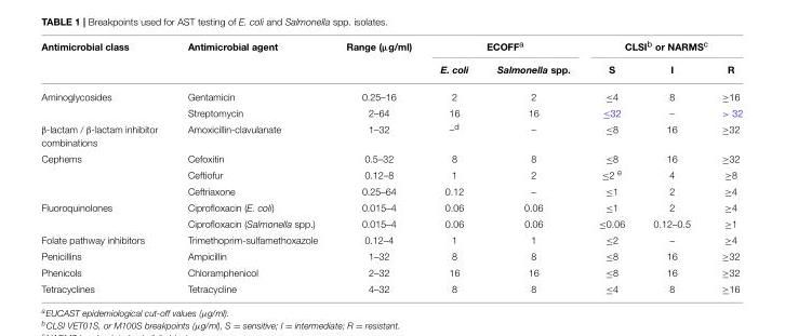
<table><thead><tr><td rowspan="2">Antimicrobial class</td><td rowspan="2">Antimicrobial agent</td><td rowspan="2">Range (µg/ml)</td><td colspan="2">ECOFF<sup>a</sup></td><td colspan="3">CLSI<sup>b</sup> or NARMS<sup>c</sup></td></tr><tr><td>E. coli</td><td>Salmonella spp.</td><td>S</td><td>I</td><td>R</td></tr></thead><tbody><tr><td rowspan="2">Aminoglycosides</td><td>Gentamicin</td><td>0.25–16</td><td>2</td><td>2</td><td>≤4</td><td>8</td><td>≥16</td></tr><tr><td>Streptomycin</td><td>2–64</td><td>16</td><td>16</td><td>≤32</td><td>–</td><td>&gt; 32</td></tr><tr><td>β-lactam / β-lactam inhibitor combinations</td><td>Amoxicillin-clavulanate</td><td>1–32</td><td>–<sup>d</sup></td><td>–</td><td>≤8</td><td>16</td><td>≥32</td></tr><tr><td rowspan="3">Cephems</td><td>Cefoxitin</td><td>0.5–32</td><td>8</td><td>8</td><td>≤8</td><td>16</td><td>≥32</td></tr><tr><td>Ceftiofur</td><td>0.12–8</td><td>1</td><td>2</td><td>≤2 <sup>e</sup></td><td>4</td><td>≥8</td></tr><tr><td>Ceftriaxone</td><td>0.25–64</td><td>0.12</td><td>–</td><td>≤1</td><td>2</td><td>≥4</td></tr><tr><td rowspan="2">Fluoroquinolones</td><td>Ciprofloxacin (E. coli)</td><td>0.015–4</td><td>0.06</td><td>0.06</td><td>≤1</td><td>2</td><td>≥4</td></tr><tr><td>Ciprofloxacin (Salmonella spp.)</td><td>0.015–4</td><td>0.06</td><td>0.06</td><td>≤0.06</td><td>0.12–0.5</td><td>≥1</td></tr><tr><td>Folate pathway inhibitors</td><td>Trimethoprim-sulfamethoxazole</td><td>0.12–4</td><td>1</td><td>1</td><td>≤2</td><td>–</td><td>≥4</td></tr><tr><td>Penicillins</td><td>Ampicillin</td><td>1–32</td><td>8</td><td>8</td><td>≤8</td><td>16</td><td>≥32</td></tr><tr><td>Phenicols</td><td>Chloramphenicol</td><td>2–32</td><td>16</td><td>16</td><td>≤8</td><td>16</td><td>≥32</td></tr><tr><td>Tetracyclines</td><td>Tetracycline</td><td>4–32</td><td>8</td><td>8</td><td>≤4</td><td>8</td><td>≥16</td></tr></tbody></table>